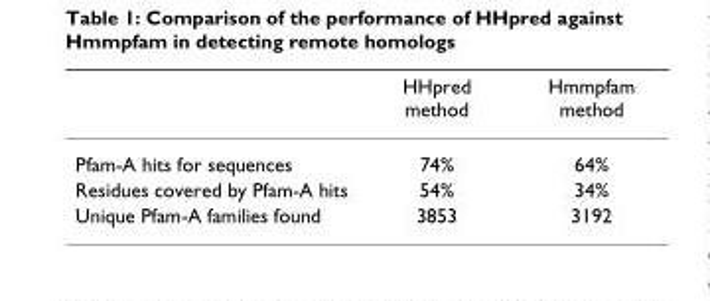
<table><thead><tr><td></td><td>HHpred method</td><td>Hmmpfam method</td></tr></thead><tbody><tr><td>Pfam-A hits for sequences</td><td>74%</td><td>64%</td></tr><tr><td>Residues covered by Pfam-A hits</td><td>54%</td><td>34%</td></tr><tr><td>Unique Pfam-A families found</td><td>3853</td><td>3192</td></tr></tbody></table>